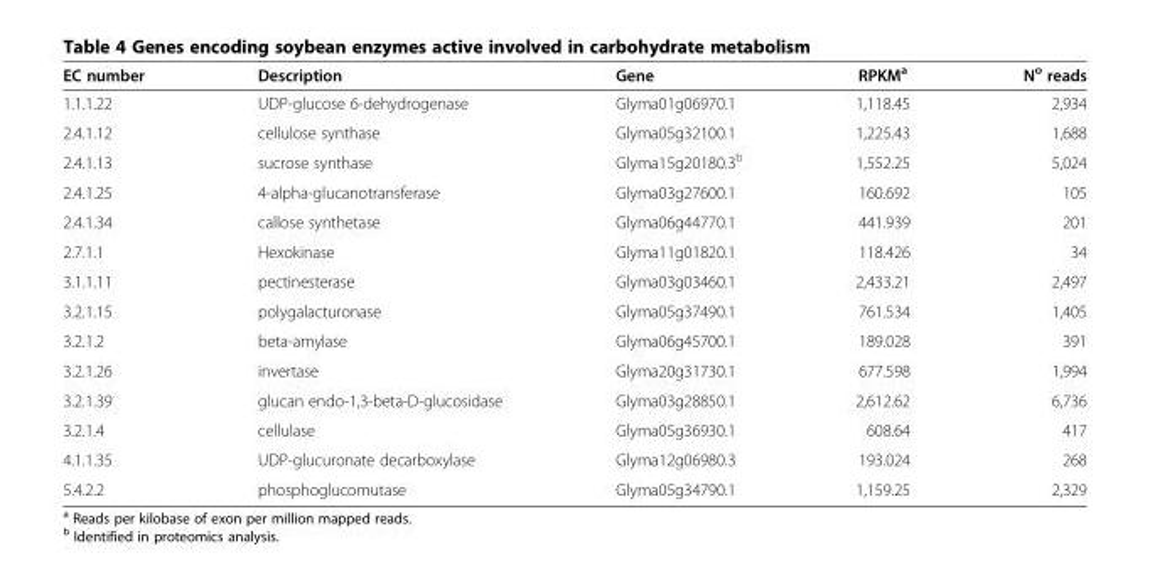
<table><thead><tr><td>EC number</td><td>Description</td><td>Gene</td><td>RPKM<sup>a</sup></td><td>N<sup>o</sup> reads</td></tr></thead><tbody><tr><td>1.1.1.22</td><td>UDP-glucose 6-dehydrogenase</td><td>Glyma01g06970.1</td><td>1,118.45</td><td>2,934</td></tr><tr><td>2.4.1.12</td><td>cellulose synthase</td><td>Glyma05g32100.1</td><td>1,225.43</td><td>1,688</td></tr><tr><td>2.4.1.13</td><td>sucrose synthase</td><td>Glyma15g20180.3<sup>b</sup></td><td>1,552.25</td><td>5,024</td></tr><tr><td>2.4.1.25</td><td>4-alpha-glucanotransferase</td><td>Glyma03g27600.1</td><td>160.692</td><td>105</td></tr><tr><td>2.4.1.34</td><td>callose synthetase</td><td>Glyma06g44770.1</td><td>441.939</td><td>201</td></tr><tr><td>2.7.1.1</td><td>Hexokinase</td><td>Glyma11g01820.1</td><td>118.426</td><td>34</td></tr><tr><td>3.1.1.11</td><td>pectinesterase</td><td>Glyma03g03460.1</td><td>2,433.21</td><td>2,497</td></tr><tr><td>3.2.1.15</td><td>polygalacturonase</td><td>Glyma05g37490.1</td><td>761.534</td><td>1,405</td></tr><tr><td>3.2.1.2</td><td>beta-amylase</td><td>Glyma06g45700.1</td><td>189.028</td><td>391</td></tr><tr><td>3.2.1.26</td><td>invertase</td><td>Glyma20g31730.1</td><td>677.598</td><td>1,994</td></tr><tr><td>3.2.1.39</td><td>glucan endo-1,3-beta-D-glucosidase</td><td>Glyma03g28850.1</td><td>2,612.62</td><td>6,736</td></tr><tr><td>3.2.1.4</td><td>cellulase</td><td>Glyma05g36930.1</td><td>608.64</td><td>417</td></tr><tr><td>4.1.1.35</td><td>UDP-glucuronate decarboxylase</td><td>Glyma12g06980.3</td><td>193.024</td><td>268</td></tr><tr><td>5.4.2.2</td><td>phosphoglucomutase</td><td>Glyma05g34790.1</td><td>1,159.25</td><td>2,329</td></tr></tbody></table>